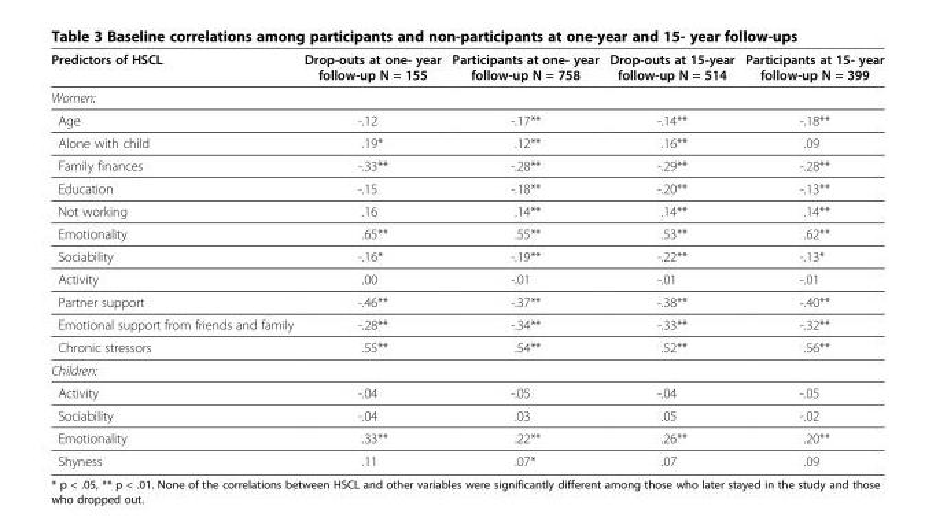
<table><thead><tr><td>Predictors of HSCL</td><td>Drop-outs at one- year follow-up N = 155</td><td>Participants at one- year follow-up N = 758</td><td>Drop-outs at 15-year follow-up N = 514</td><td>Participants at 15- year follow-up N = 399</td></tr></thead><tbody><tr><td colspan="5">Women:</td></tr><tr><td>Age</td><td>-.12</td><td>-.17**</td><td>-.14**</td><td>-.18**</td></tr><tr><td>Alone with child</td><td>.19*</td><td>.12**</td><td>.16**</td><td>.09</td></tr><tr><td>Family finances</td><td>-.33**</td><td>-.28**</td><td>-.29**</td><td>-.28**</td></tr><tr><td>Education</td><td>-.15</td><td>-.18**</td><td>-.20**</td><td>-.13**</td></tr><tr><td>Not working</td><td>.16</td><td>.14**</td><td>.14**</td><td>.14**</td></tr><tr><td>Emotionality</td><td>.65**</td><td>.55**</td><td>.53**</td><td>.62**</td></tr><tr><td>Sociability</td><td>-.16*</td><td>-.19**</td><td>-.22**</td><td>-.13*</td></tr><tr><td>Activity</td><td>.00</td><td>-.01</td><td>-.01</td><td>-.01</td></tr><tr><td>Partner support</td><td>-.46**</td><td>-.37**</td><td>-.38**</td><td>-.40**</td></tr><tr><td>Emotional support from friends and family</td><td>-.28**</td><td>-.34**</td><td>-.33**</td><td>-.32**</td></tr><tr><td>Chronic stressors</td><td>.55**</td><td>.54**</td><td>.52**</td><td>.56**</td></tr><tr><td colspan="5">Children:</td></tr><tr><td>Activity</td><td>-.04</td><td>-.05</td><td>-.04</td><td>-.05</td></tr><tr><td>Sociability</td><td>-.04</td><td>.03</td><td>.05</td><td>-.02</td></tr><tr><td>Emotionality</td><td>.33**</td><td>.22**</td><td>.26**</td><td>.20**</td></tr><tr><td>Shyness</td><td>.11</td><td>.07*</td><td>.07</td><td>.09</td></tr></tbody></table>